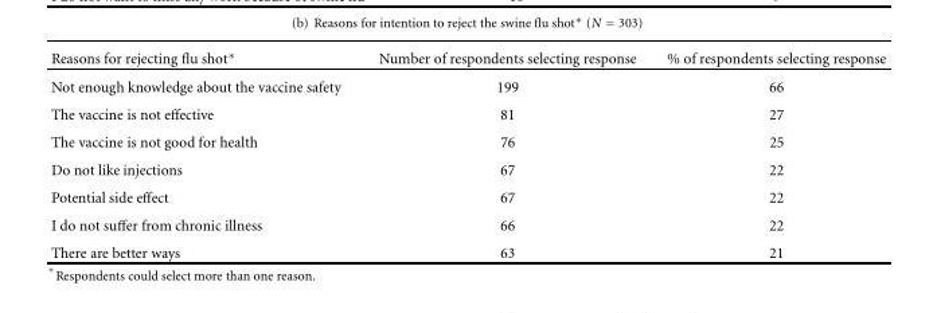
<table><thead><tr><td>Reasons for rejecting flu shot∗</td><td>Number of respondents selecting response</td><td>% of respondents selecting response</td></tr></thead><tbody><tr><td>Not enough knowledge about the vaccine safety</td><td>199</td><td>66</td></tr><tr><td>The vaccine is not effective</td><td>81</td><td>27</td></tr><tr><td>The vaccine is not good for health</td><td>76</td><td>25</td></tr><tr><td>Do not like injections</td><td>67</td><td>22</td></tr><tr><td>Potential side effect</td><td>67</td><td>22</td></tr><tr><td>I do not suffer from chronic illness</td><td>66</td><td>22</td></tr><tr><td>There are better ways</td><td>63</td><td>21</td></tr></tbody></table>